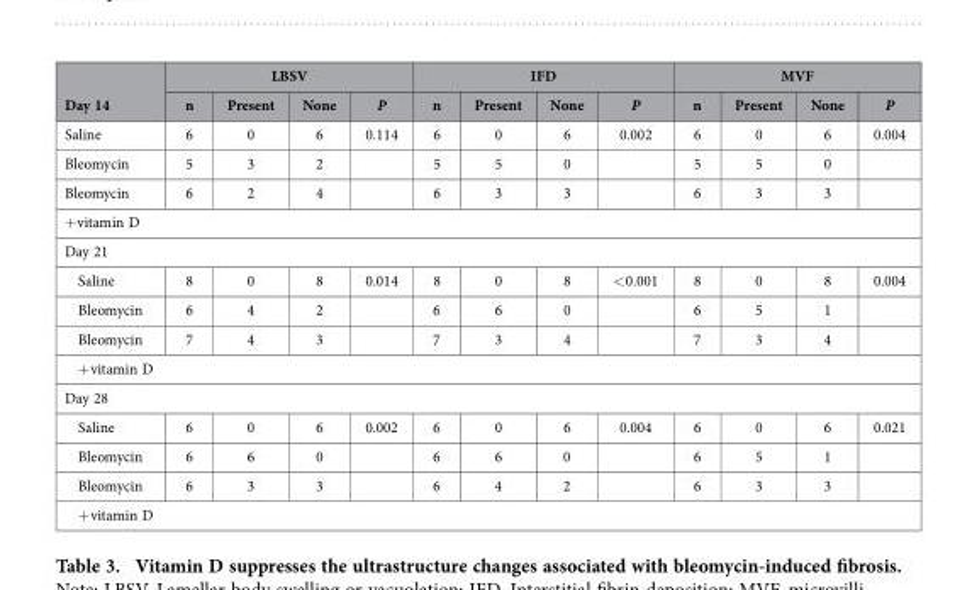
<table><thead><tr><td rowspan="2">Day 14</td><td colspan="4">LBSV</td><td colspan="4">IFD</td><td colspan="4">MVF</td></tr><tr><td>n</td><td>Present</td><td>None</td><td>P</td><td>n</td><td>Present</td><td>None</td><td>P</td><td>n</td><td>Present</td><td>None</td><td>P</td></tr></thead><tbody><tr><td>Saline</td><td>6</td><td>0</td><td>6</td><td>0.114</td><td>6</td><td>0</td><td>6</td><td>0.002</td><td>6</td><td>0</td><td>6</td><td>0.004</td></tr><tr><td>Bleomycin</td><td>5</td><td>3</td><td>2</td><td></td><td>5</td><td>5</td><td>0</td><td></td><td>5</td><td>5</td><td>0</td><td></td></tr><tr><td>Bleomycin</td><td>6</td><td>2</td><td>4</td><td></td><td>6</td><td>3</td><td>3</td><td></td><td>6</td><td>3</td><td>3</td><td></td></tr><tr><td colspan="13">+ vitamin D</td></tr><tr><td colspan="13">Day 21</td></tr><tr><td>Saline</td><td>8</td><td>0</td><td>8</td><td>0.014</td><td>8</td><td>0</td><td>8</td><td>&lt; 0.001</td><td>8</td><td>0</td><td>8</td><td>0.004</td></tr><tr><td>Bleomycin</td><td>6</td><td>4</td><td>2</td><td></td><td>6</td><td>6</td><td>0</td><td></td><td>6</td><td>5</td><td>1</td><td></td></tr><tr><td>Bleomycin</td><td>7</td><td>4</td><td>3</td><td></td><td>7</td><td>3</td><td>4</td><td></td><td>7</td><td>3</td><td>4</td><td></td></tr><tr><td colspan="13">+ vitamin D</td></tr><tr><td colspan="13">Day 28</td></tr><tr><td>Saline</td><td>6</td><td>0</td><td>6</td><td>0.002</td><td>6</td><td>0</td><td>6</td><td>0.004</td><td>6</td><td>0</td><td>6</td><td>0.021</td></tr><tr><td>Bleomycin</td><td>6</td><td>6</td><td>0</td><td></td><td>6</td><td>6</td><td>0</td><td></td><td>6</td><td>5</td><td>1</td><td></td></tr><tr><td>Bleomycin</td><td>6</td><td>3</td><td>3</td><td></td><td>6</td><td>4</td><td>2</td><td></td><td>6</td><td>3</td><td>3</td><td></td></tr><tr><td colspan="13">+ vitamin D</td></tr></tbody></table>